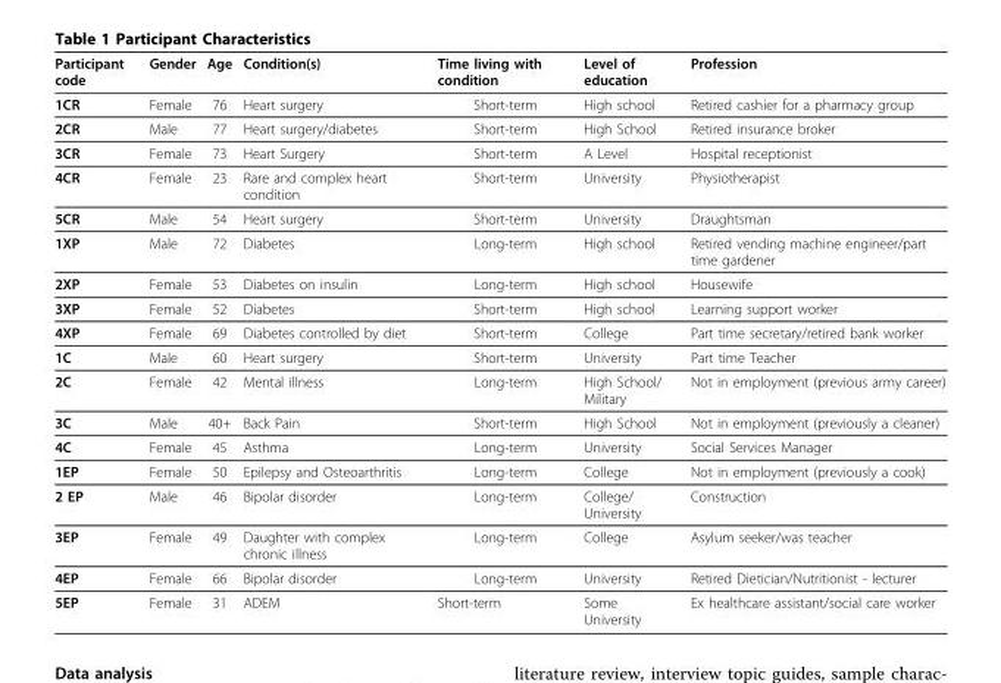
<table><thead><tr><td>Participant code</td><td>Gender</td><td>Age</td><td>Condition(s)</td><td>Time living with condition</td><td>Level of education</td><td>Profession</td></tr></thead><tbody><tr><td>1CR</td><td>Female</td><td>76</td><td>Heart surgery</td><td>Short-term</td><td>High school</td><td>Retired cashier for a pharmacy group</td></tr><tr><td>2CR</td><td>Male</td><td>77</td><td>Heart surgery/diabetes</td><td>Short-term</td><td>High School</td><td>Retired insurance broker</td></tr><tr><td>3CR</td><td>Female</td><td>73</td><td>Heart Surgery</td><td>Short-term</td><td>A Level</td><td>Hospital receptionist</td></tr><tr><td>4CR</td><td>Female</td><td>23</td><td>Rare and complex heart condition</td><td>Short-term</td><td>University</td><td>Physiotherapist</td></tr><tr><td>5CR</td><td>Male</td><td>54</td><td>Heart surgery</td><td>Short-term</td><td>University</td><td>Draughtsman</td></tr><tr><td>1XP</td><td>Male</td><td>72</td><td>Diabetes</td><td>Long-term</td><td>High school</td><td>Retired vending machine engineer/part time gardener</td></tr><tr><td>2XP</td><td>Female</td><td>53</td><td>Diabetes on insulin</td><td>Long-term</td><td>High school</td><td>Housewife</td></tr><tr><td>3XP</td><td>Female</td><td>52</td><td>Diabetes</td><td>Short-term</td><td>High school</td><td>Learning support worker</td></tr><tr><td>4XP</td><td>Female</td><td>69</td><td>Diabetes controlled by diet</td><td>Short-term</td><td>College</td><td>Part time secretary/retired bank worker</td></tr><tr><td>1C</td><td>Male</td><td>60</td><td>Heart surgery</td><td>Short-term</td><td>University</td><td>Part time Teacher</td></tr><tr><td>2C</td><td>Female</td><td>42</td><td>Mental illness</td><td>Long-term</td><td>High School/ Military</td><td>Not in employment (previous army career)</td></tr><tr><td>3C</td><td>Male</td><td>40+</td><td>Back Pain</td><td>Short-term</td><td>High School</td><td>Not in employment (previously a cleaner)</td></tr><tr><td>4C</td><td>Female</td><td>45</td><td>Asthma</td><td>Long-term</td><td>University</td><td>Social Services Manager</td></tr><tr><td>1EP</td><td>Female</td><td>50</td><td>Epilepsy and Osteoarthritis</td><td>Long-term</td><td>College</td><td>Not in employment (previously a cook)</td></tr><tr><td>2 EP</td><td>Male</td><td>46</td><td>Bipolar disorder</td><td>Long-term</td><td>College/ University</td><td>Construction</td></tr><tr><td>3EP</td><td>Female</td><td>49</td><td>Daughter with complex chronic illness</td><td>Long-term</td><td>College</td><td>Asylum seeker/was teacher</td></tr><tr><td>4EP</td><td>Female</td><td>66</td><td>Bipolar disorder</td><td>Long-term</td><td>University</td><td>Retired Dietician/Nutritionist - lecturer</td></tr><tr><td>5EP</td><td>Female</td><td>31</td><td>ADEM</td><td>Short-term</td><td>Some University</td><td>Ex healthcare assistant/social care worker</td></tr></tbody></table>